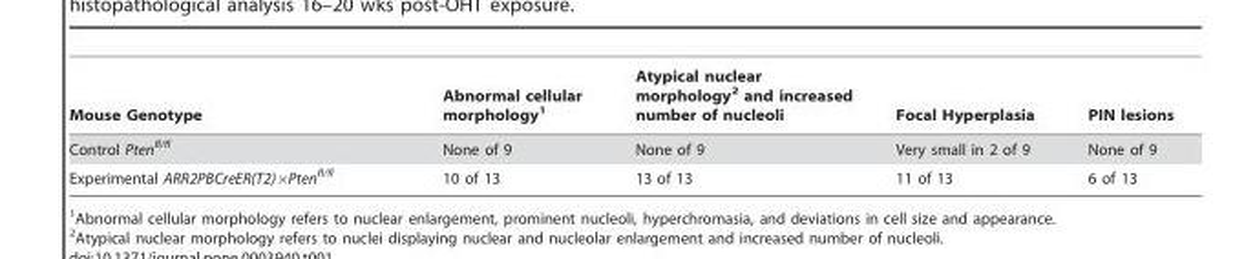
<table><thead><tr><td>Mouse Genotype</td><td>Abnormal cellular morphology<sup>1</sup></td><td>Atypical nuclear morphology<sup>2</sup> and increased number of nucleoli</td><td>Focal Hyperplasia</td><td>PIN lesions</td></tr></thead><tbody><tr><td>Control Pten<sup>fl/fl</sup></td><td>None of 9</td><td>None of 9</td><td>Very small in 2 of 9</td><td>None of 9</td></tr><tr><td>Experimental ARR2PBCreER(T2)×Pten<sup>fl/fl</sup></td><td>10 of 13</td><td>13 of 13</td><td>11 of 13</td><td>6 of 13</td></tr></tbody></table>